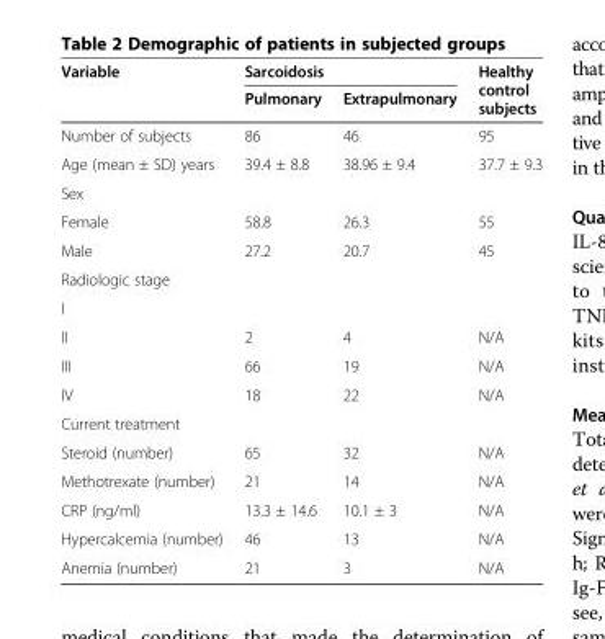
<table><thead><tr><td rowspan="2">Variable</td><td colspan="2">Sarcoidosis</td><td rowspan="2">Healthy control subjects</td></tr><tr><td>Pulmonary</td><td>Extrapulmonary</td></tr></thead><tbody><tr><td>Number of subjects</td><td>86</td><td>46</td><td>95</td></tr><tr><td>Age (mean ± SD) years</td><td>39.4 ± 8.8</td><td>38.96 ± 9.4</td><td>37.7 ± 9.3</td></tr><tr><td colspan="4">Sex</td></tr><tr><td>Female</td><td>58.8</td><td>26.3</td><td>55</td></tr><tr><td>Male</td><td>27.2</td><td>20.7</td><td>45</td></tr><tr><td colspan="4">Radiologic stage</td></tr><tr><td colspan="4">I</td></tr><tr><td>II</td><td>2</td><td>4</td><td>N/A</td></tr><tr><td>III</td><td>66</td><td>19</td><td>N/A</td></tr><tr><td>IV</td><td>18</td><td>22</td><td>N/A</td></tr><tr><td colspan="4">Current treatment</td></tr><tr><td>Steroid (number)</td><td>65</td><td>32</td><td>N/A</td></tr><tr><td>Methotrexate (number)</td><td>21</td><td>14</td><td>N/A</td></tr><tr><td>CRP (ng/ml)</td><td>13.3 ± 14.6</td><td>10.1 ± 3</td><td>N/A</td></tr><tr><td>Hypercalcemia (number)</td><td>46</td><td>13</td><td>N/A</td></tr><tr><td>Anemia (number)</td><td>21</td><td>3</td><td>N/A</td></tr></tbody></table>